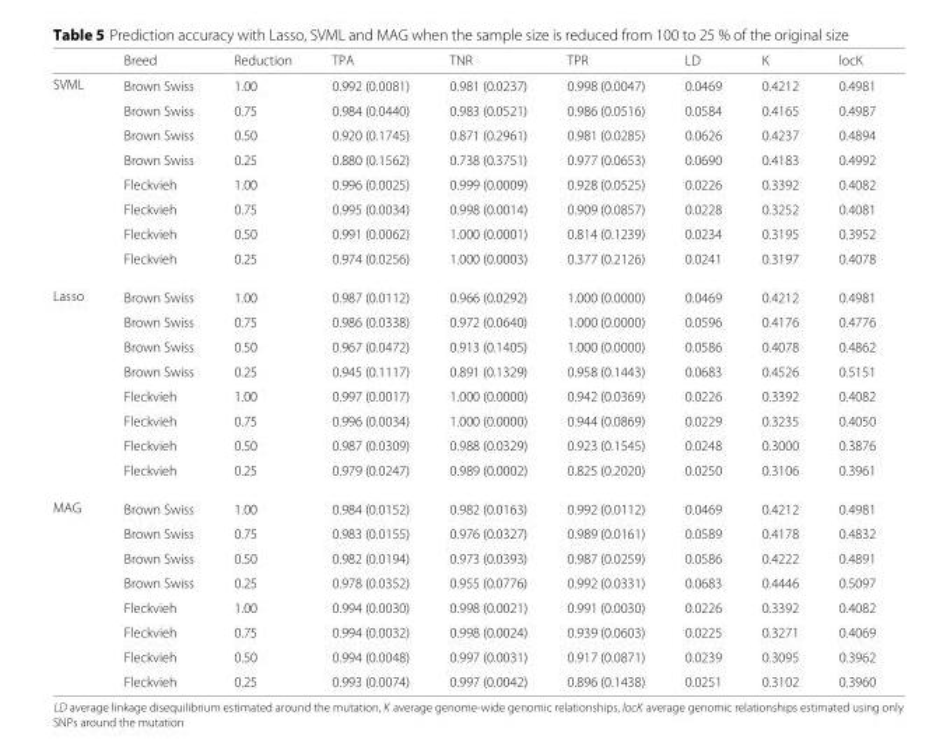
<table><thead><tr><td></td><td>Breed</td><td>Reduction</td><td>TPA</td><td>TNR</td><td>TPR</td><td>LD</td><td>K</td><td>locK</td></tr></thead><tbody><tr><td rowspan="8">SVML</td><td>Brown Swiss</td><td>1.00</td><td>0.992 (0.0081)</td><td>0.981 (0.0237)</td><td>0.998 (0.0047)</td><td>0.0469</td><td>0.4212</td><td>0.4981</td></tr><tr><td>Brown Swiss</td><td>0.75</td><td>0.984 (0.0440)</td><td>0.983 (0.0521)</td><td>0.986 (0.0516)</td><td>0.0584</td><td>0.4165</td><td>0.4987</td></tr><tr><td>Brown Swiss</td><td>0.50</td><td>0.920 (0.1745)</td><td>0.871 (0.2961)</td><td>0.981 (0.0285)</td><td>0.0626</td><td>0.4237</td><td>0.4894</td></tr><tr><td>Brown Swiss</td><td>0.25</td><td>0.880 (0.1562)</td><td>0.738 (0.3751)</td><td>0.977 (0.0653)</td><td>0.0690</td><td>0.4183</td><td>0.4992</td></tr><tr><td>Fleckvieh</td><td>1.00</td><td>0.996 (0.0025)</td><td>0.999 (0.0009)</td><td>0.928 (0.0525)</td><td>0.0226</td><td>0.3392</td><td>0.4082</td></tr><tr><td>Fleckvieh</td><td>0.75</td><td>0.995 (0.0034)</td><td>0.998 (0.0014)</td><td>0.909 (0.0857)</td><td>0.0228</td><td>0.3252</td><td>0.4081</td></tr><tr><td>Fleckvieh</td><td>0.50</td><td>0.991 (0.0062)</td><td>1.000 (0.0001)</td><td>0.814 (0.1239)</td><td>0.0234</td><td>0.3195</td><td>0.3952</td></tr><tr><td>Fleckvieh</td><td>0.25</td><td>0.974 (0.0256)</td><td>1.000 (0.0003)</td><td>0.377 (0.2126)</td><td>0.0241</td><td>0.3197</td><td>0.4078</td></tr><tr><td rowspan="8">Lasso</td><td>Brown Swiss</td><td>1.00</td><td>0.987 (0.0112)</td><td>0.966 (0.0292)</td><td>1.000 (0.0000)</td><td>0.0469</td><td>0.4212</td><td>0.4981</td></tr><tr><td>Brown Swiss</td><td>0.75</td><td>0.986 (0.0338)</td><td>0.972 (0.0640)</td><td>1.000 (0.0000)</td><td>0.0596</td><td>0.4176</td><td>0.4776</td></tr><tr><td>Brown Swiss</td><td>0.50</td><td>0.967 (0.0472)</td><td>0.913 (0.1405)</td><td>1.000 (0.0000)</td><td>0.0586</td><td>0.4078</td><td>0.4862</td></tr><tr><td>Brown Swiss</td><td>0.25</td><td>0.945 (0.1117)</td><td>0.891 (0.1329)</td><td>0.958 (0.1443)</td><td>0.0683</td><td>0.4526</td><td>0.5151</td></tr><tr><td>Fleckvieh</td><td>1.00</td><td>0.997 (0.0017)</td><td>1.000 (0.0000)</td><td>0.942 (0.0369)</td><td>0.0226</td><td>0.3392</td><td>0.4082</td></tr><tr><td>Fleckvieh</td><td>0.75</td><td>0.996 (0.0034)</td><td>1.000 (0.0000)</td><td>0.944 (0.0869)</td><td>0.0229</td><td>0.3235</td><td>0.4050</td></tr><tr><td>Fleckvieh</td><td>0.50</td><td>0.987 (0.0309)</td><td>0.988 (0.0329)</td><td>0.923 (0.1545)</td><td>0.0248</td><td>0.3000</td><td>0.3876</td></tr><tr><td>Fleckvieh</td><td>0.25</td><td>0.979 (0.0247)</td><td>0.989 (0.0002)</td><td>0.825 (0.2020)</td><td>0.0250</td><td>0.3106</td><td>0.3961</td></tr><tr><td rowspan="8">MAG</td><td>Brown Swiss</td><td>1.00</td><td>0.984 (0.0152)</td><td>0.982 (0.0163)</td><td>0.992 (0.0112)</td><td>0.0469</td><td>0.4212</td><td>0.4981</td></tr><tr><td>Brown Swiss</td><td>0.75</td><td>0.983 (0.0155)</td><td>0.976 (0.0327)</td><td>0.989 (0.0161)</td><td>0.0589</td><td>0.4178</td><td>0.4832</td></tr><tr><td>Brown Swiss</td><td>0.50</td><td>0.982 (0.0194)</td><td>0.973 (0.0393)</td><td>0.987 (0.0259)</td><td>0.0586</td><td>0.4222</td><td>0.4891</td></tr><tr><td>Brown Swiss</td><td>0.25</td><td>0.978 (0.0352)</td><td>0.955 (0.0776)</td><td>0.992 (0.0331)</td><td>0.0683</td><td>0.4446</td><td>0.5097</td></tr><tr><td>Fleckvieh</td><td>1.00</td><td>0.994 (0.0030)</td><td>0.998 (0.0021)</td><td>0.991 (0.0030)</td><td>0.0226</td><td>0.3392</td><td>0.4082</td></tr><tr><td>Fleckvieh</td><td>0.75</td><td>0.994 (0.0032)</td><td>0.998 (0.0024)</td><td>0.939 (0.0603)</td><td>0.0225</td><td>0.3271</td><td>0.4069</td></tr><tr><td>Fleckvieh</td><td>0.50</td><td>0.994 (0.0048)</td><td>0.997 (0.0031)</td><td>0.917 (0.0871)</td><td>0.0239</td><td>0.3095</td><td>0.3962</td></tr><tr><td>Fleckvieh</td><td>0.25</td><td>0.993 (0.0074)</td><td>0.997 (0.0042)</td><td>0.896 (0.1438)</td><td>0.0251</td><td>0.3102</td><td>0.3960</td></tr></tbody></table>